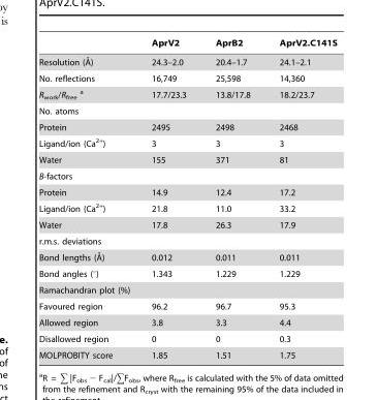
<table><thead><tr><td></td><td>AprV2</td><td>AprB2</td><td>AprV2.C141S</td></tr></thead><tbody><tr><td>Resolution (A˚)</td><td>24.3–2.0</td><td>20.4–1.7</td><td>24.1–2.1</td></tr><tr><td>No. reflections</td><td>16,749</td><td>25,598</td><td>14,360</td></tr><tr><td>R<sub>work</sub>/R<sub>free</sub> a</td><td>17.7/23.3</td><td>13.8/17.8</td><td>18.2/23.7</td></tr><tr><td colspan="4">No. atoms</td></tr><tr><td>Protein</td><td>2495</td><td>2498</td><td>2468</td></tr><tr><td>Ligand/ion (Ca<sup>2+</sup>)</td><td>3</td><td>3</td><td>3</td></tr><tr><td>Water</td><td>155</td><td>371</td><td>81</td></tr><tr><td colspan="4">B-factors</td></tr><tr><td>Protein</td><td>14.9</td><td>12.4</td><td>17.2</td></tr><tr><td>Ligand/ion (Ca<sup>2+</sup>)</td><td>21.8</td><td>11.0</td><td>33.2</td></tr><tr><td>Water</td><td>17.8</td><td>26.3</td><td>17.9</td></tr><tr><td colspan="4">r.m.s. deviations</td></tr><tr><td>Bond lengths (A˚)</td><td>0.012</td><td>0.011</td><td>0.011</td></tr><tr><td>Bond angles (°)</td><td>1.343</td><td>1.229</td><td>1.229</td></tr><tr><td colspan="4">Ramachandran plot (%)</td></tr><tr><td>Favoured region</td><td>96.2</td><td>96.7</td><td>95.3</td></tr><tr><td>Allowed region</td><td>3.8</td><td>3.3</td><td>4.4</td></tr><tr><td>Disallowed region</td><td>0</td><td>0</td><td>0.3</td></tr><tr><td>MOLPROBITY score</td><td>1.85</td><td>1.51</td><td>1.75</td></tr></tbody></table>